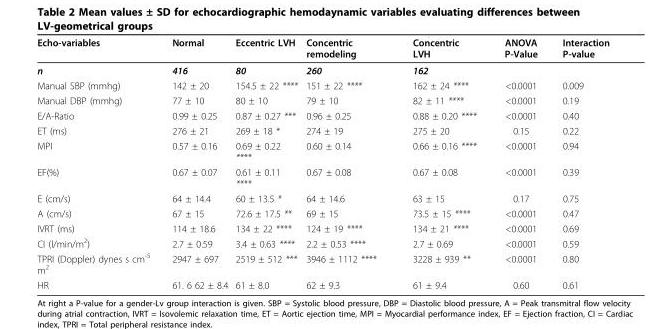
<table><thead><tr><td>Echo-variables</td><td>Normal</td><td>Eccentric LVH</td><td>Concentric remodeling</td><td>Concentric LVH</td><td>ANOVA P-Value</td><td>Interaction P-value</td></tr></thead><tbody><tr><td>n</td><td>416</td><td>80</td><td>260</td><td>162</td><td></td><td></td></tr><tr><td>Manual SBP (mmhg)</td><td>142 ± 20</td><td>154.5 ± 22 ****</td><td>151 ± 22 ****</td><td>162 ± 24 ****</td><td>&lt;0.0001</td><td>0.009</td></tr><tr><td>Manual DBP (mmhg)</td><td>77 ± 10</td><td>80 ± 10</td><td>79 ± 10</td><td>82 ± 11 ****</td><td>&lt;0.0001</td><td>0.19</td></tr><tr><td>E/A-Ratio</td><td>0.99 ± 0.25</td><td>0.87 ± 0.27 ***</td><td>0.96 ± 0.25</td><td>0.88 ± 0.20 ****</td><td>&lt;0.0001</td><td>0.40</td></tr><tr><td>ET (ms)</td><td>276 ± 21</td><td>269 ± 18 *</td><td>274 ± 19</td><td>275 ± 20</td><td>0.15</td><td>0.22</td></tr><tr><td>MPI</td><td>0.57 ± 0.16</td><td>0.69 ± 0.22 ****</td><td>0.60 ± 0.14</td><td>0.66 ± 0.16 ****</td><td>&lt;0.0001</td><td>0.94</td></tr><tr><td>EF(%)</td><td>0.67 ± 0.07</td><td>0.61 ± 0.11 ****</td><td>0.67 ± 0.08</td><td>0.67 ± 0.08</td><td>&lt;0.0001</td><td>0.39</td></tr><tr><td>E (cm/s)</td><td>64 ± 14.4</td><td>60 ± 13.5 *</td><td>64 ± 14.6</td><td>63 ± 15</td><td>0.17</td><td>0.75</td></tr><tr><td>A (cm/s)</td><td>67 ± 15</td><td>72.6 ± 17.5 **</td><td>69 ± 15</td><td>73.5 ± 15 ****</td><td>&lt;0.0001</td><td>0.47</td></tr><tr><td>IVRT (ms)</td><td>114 ± 18.6</td><td>134 ± 22 ****</td><td>124 ± 19 ****</td><td>134 ± 21 ****</td><td>&lt;0.0001</td><td>0.69</td></tr><tr><td>CI (l/min/m<sup>2</sup>)</td><td>2.7 ± 0.59</td><td>3.4 ± 0.63 ****</td><td>2.2 ± 0.53 ****</td><td>2.7 ± 0.69</td><td>&lt;0.0001</td><td>0.59</td></tr><tr><td>TPRI (Doppler) dynes s cm<sup>-5</sup> m<sup>2</sup></td><td>2947 ± 697</td><td>2519 ± 512 ***</td><td>3946 ± 1112 ****</td><td>3228 ± 939 **</td><td>&lt;0.0001</td><td>0.80</td></tr><tr><td>HR</td><td>61. 6 62 ± 8.4</td><td>61 ± 8.0</td><td>62 ± 9.3</td><td>61 ± 9.4</td><td>0.60</td><td>0.61</td></tr></tbody></table>